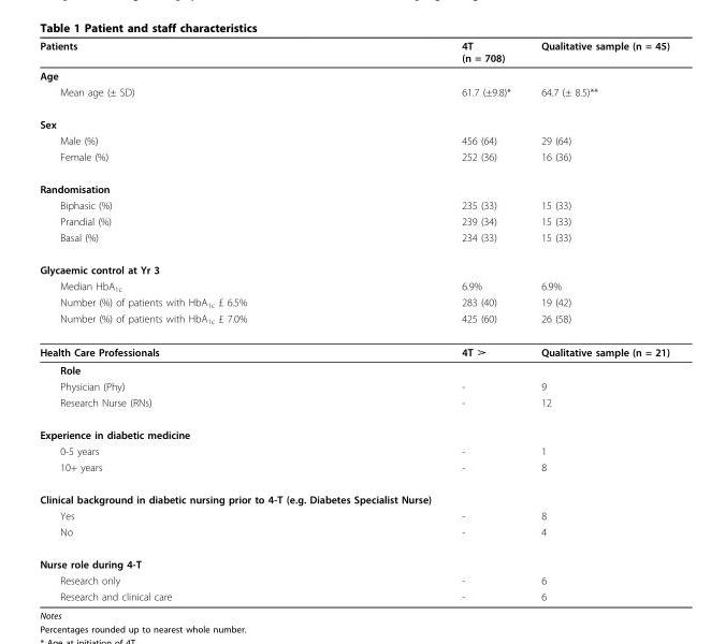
<table><thead><tr><td>Patients</td><td>4T (n = 708)</td><td>Qualitative sample (n = 45)</td></tr></thead><tbody><tr><td colspan="3">Age</td></tr><tr><td>Mean age (± SD)</td><td>61.7 (±9.8)*</td><td>64.7 (± 8.5)**</td></tr><tr><td colspan="3">Sex</td></tr><tr><td>Male (%)</td><td>456 (64)</td><td>29 (64)</td></tr><tr><td>Female (%)</td><td>252 (36)</td><td>16 (36)</td></tr><tr><td colspan="3">Randomisation</td></tr><tr><td>Biphasic (%)</td><td>235 (33)</td><td>15 (33)</td></tr><tr><td>Prandial (%)</td><td>239 (34)</td><td>15 (33)</td></tr><tr><td>Basal (%)</td><td>234 (33)</td><td>15 (33)</td></tr><tr><td colspan="3">Glycaemic control at Yr 3</td></tr><tr><td>Median HbA<sub>1c</sub></td><td>6.9%</td><td>6.9%</td></tr><tr><td>Number (%) of patients with HbA<sub>1c</sub> £ 6.5%</td><td>283 (40)</td><td>19 (42)</td></tr><tr><td>Number (%) of patients with HbA<sub>1c</sub> £ 7.0%</td><td>425 (60)</td><td>26 (58)</td></tr><tr><td>Health Care Professionals</td><td>4T ➢</td><td>Qualitative sample (n = 21)</td></tr><tr><td colspan="3">Role</td></tr><tr><td>Physician (Phy)</td><td>-</td><td>9</td></tr><tr><td>Research Nurse (RNs)</td><td>-</td><td>12</td></tr><tr><td colspan="3">Experience in diabetic medicine</td></tr><tr><td>0-5 years</td><td>-</td><td>1</td></tr><tr><td>10+ years</td><td>-</td><td>8</td></tr><tr><td colspan="3">Clinical background in diabetic nursing prior to 4-T (e.g. Diabetes Specialist Nurse)</td></tr><tr><td>Yes</td><td>-</td><td>8</td></tr><tr><td>No</td><td>-</td><td>4</td></tr><tr><td colspan="3">Nurse role during 4-T</td></tr><tr><td>Research only</td><td>-</td><td>6</td></tr><tr><td>Research and clinical care</td><td>-</td><td>6</td></tr></tbody></table>